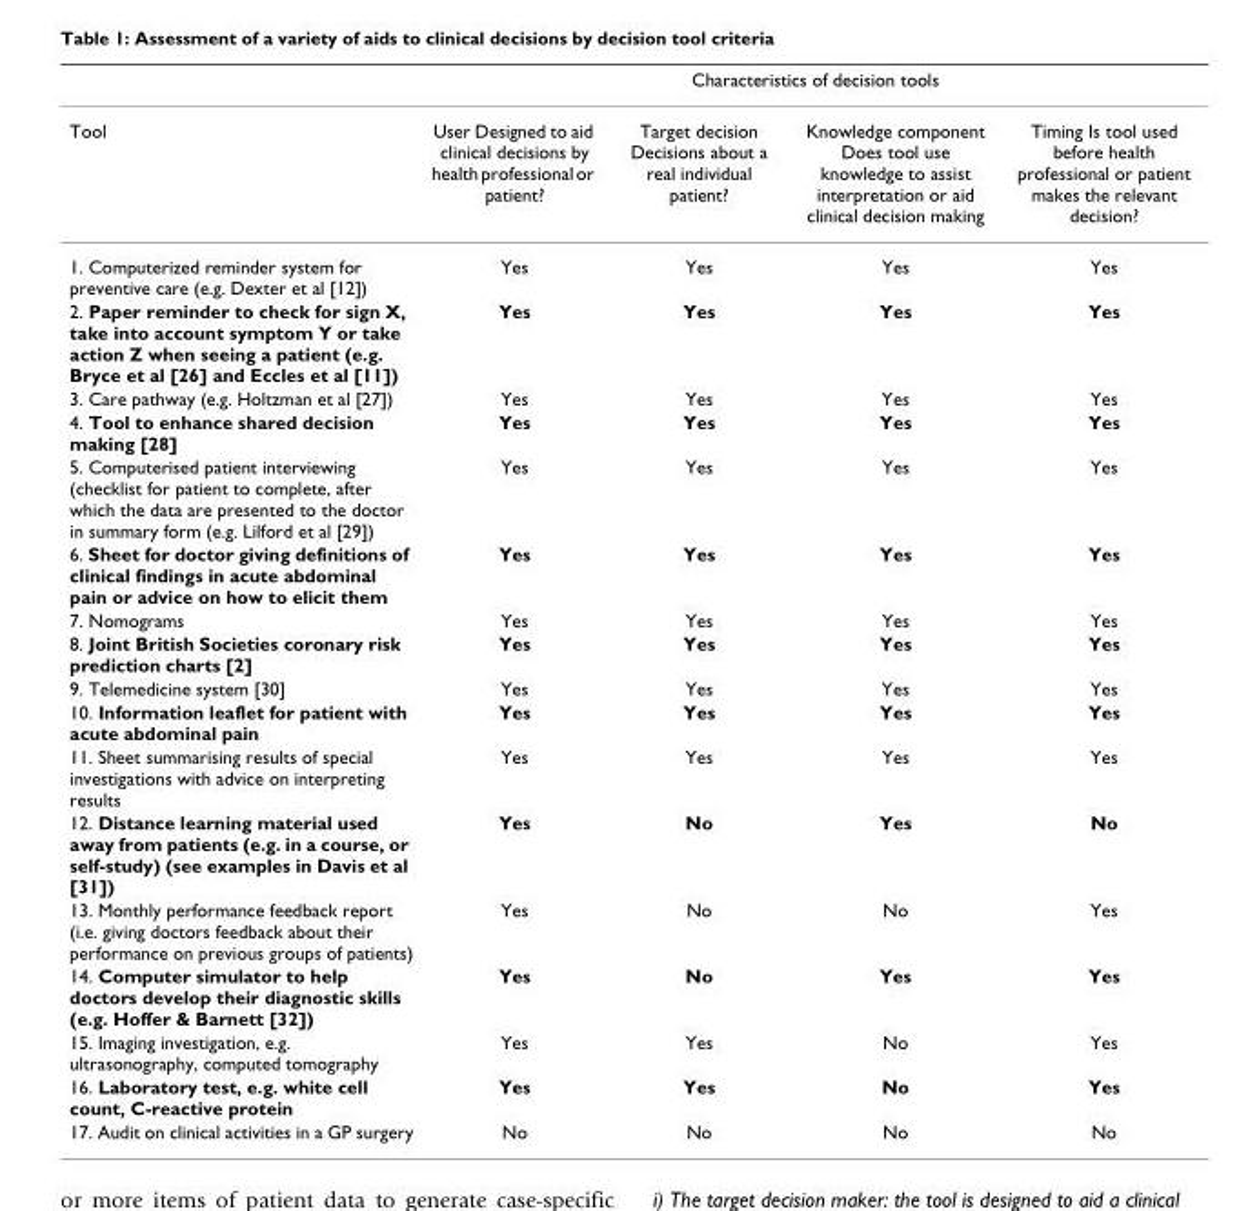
<table><thead><tr><td rowspan="2">Tool</td><td colspan="4">Characteristics of decision tools</td></tr><tr><td>User Designed to aid clinical decisions by health professional or patient?</td><td>Target decision Decisions about a real individual patient?</td><td>Knowledge component Does tool use knowledge to assist interpretation or aid clinical decision making</td><td>Timing Is tool used before health professional or patient makes the relevant decision?</td></tr></thead><tbody><tr><td>1. Computerized reminder system for preventive care (e.g. Dexter et al [12])</td><td>Yes</td><td>Yes</td><td>Yes</td><td>Yes</td></tr><tr><td>2. Paper reminder to check for sign X, take into account symptom Y or take action Z when seeing a patient (e.g. Bryce et al [26] and Eccles et al [11])</td><td>Yes</td><td>Yes</td><td>Yes</td><td>Yes</td></tr><tr><td>3. Care pathway (e.g. Holtzman et al [27])</td><td>Yes</td><td>Yes</td><td>Yes</td><td>Yes</td></tr><tr><td>4. Tool to enhance shared decision making [28]</td><td>Yes</td><td>Yes</td><td>Yes</td><td>Yes</td></tr><tr><td>5. Computerised patient interviewing (checklist for patient to complete, after which the data are presented to the doctor in summary form (e.g. Lilford et al [29])</td><td>Yes</td><td>Yes</td><td>Yes</td><td>Yes</td></tr><tr><td>6. Sheet for doctor giving definitions of clinical findings in acute abdominal pain or advice on how to elicit them</td><td>Yes</td><td>Yes</td><td>Yes</td><td>Yes</td></tr><tr><td>7. Nomograms</td><td>Yes</td><td>Yes</td><td>Yes</td><td>Yes</td></tr><tr><td>8. Joint British Societies coronary risk prediction charts [2]</td><td>Yes</td><td>Yes</td><td>Yes</td><td>Yes</td></tr><tr><td>9. Telemedicine system [30]</td><td>Yes</td><td>Yes</td><td>Yes</td><td>Yes</td></tr><tr><td>10. Information leaflet for patient with acute abdominal pain</td><td>Yes</td><td>Yes</td><td>Yes</td><td>Yes</td></tr><tr><td>11. Sheet summarising results of special investigations with advice on interpreting results</td><td>Yes</td><td>Yes</td><td>Yes</td><td>Yes</td></tr><tr><td>12. Distance learning material used away from patients (e.g. in a course, or self-study) (see examples in Davis et al [31])</td><td>Yes</td><td>No</td><td>Yes</td><td>No</td></tr><tr><td>13. Monthly performance feedback report (i.e. giving doctors feedback about their performance on previous groups of patients)</td><td>Yes</td><td>No</td><td>No</td><td>Yes</td></tr><tr><td>14. Computer simulator to help doctors develop their diagnostic skills (e.g. Hoffer &amp; Barnett [32])</td><td>Yes</td><td>No</td><td>Yes</td><td>Yes</td></tr><tr><td>15. Imaging investigation, e.g. ultrasonography, computed tomography</td><td>Yes</td><td>Yes</td><td>No</td><td>Yes</td></tr><tr><td>16. Laboratory test, e.g. white cell count, C-reactive protein</td><td>Yes</td><td>Yes</td><td>No</td><td>Yes</td></tr><tr><td>17. Audit on clinical activities in a GP surgery</td><td>No</td><td>No</td><td>No</td><td>No</td></tr></tbody></table>